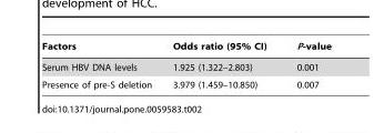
<table><thead><tr><td>Factors</td><td>Odds ratio (95% CI)</td><td>P-value</td></tr></thead><tbody><tr><td>Serum HBV DNA levels</td><td>1.925 (1.322–2.803)</td><td>0.001</td></tr><tr><td>Presence of pre-S deletion</td><td>3.979 (1.459–10.850)</td><td>0.007</td></tr></tbody></table>